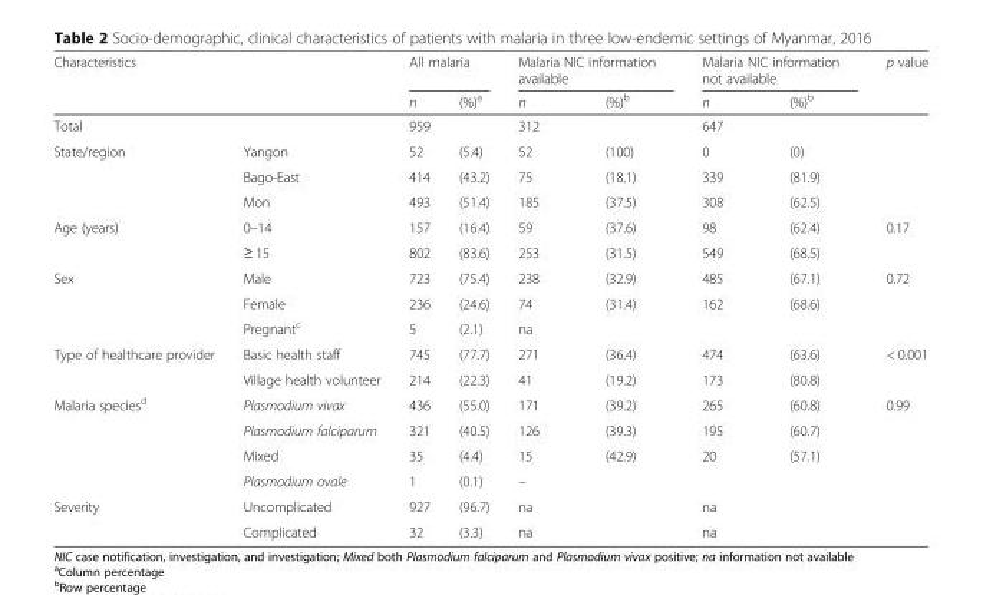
<table><thead><tr><td rowspan="2" colspan="2">Characteristics</td><td colspan="2">All malaria</td><td colspan="2">Malaria NIC information available</td><td colspan="2">Malaria NIC information not available</td><td rowspan="3">p value</td></tr><tr><td rowspan="2">n 959</td><td rowspan="2">(%)<sup>a</sup></td><td rowspan="2">n 312</td><td rowspan="2">(%)<sup>b</sup></td><td rowspan="2">n 647</td><td rowspan="2">(%)<sup>b</sup></td></tr><tr><td>Total</td><td></td></tr></thead><tbody><tr><td rowspan="3">State/region</td><td>Yangon</td><td>52</td><td>(5.4)</td><td>52</td><td>(100)</td><td>0</td><td>(0)</td><td></td></tr><tr><td>Bago-East</td><td>414</td><td>(43.2)</td><td>75</td><td>(18.1)</td><td>339</td><td>(81.9)</td><td></td></tr><tr><td>Mon</td><td>493</td><td>(51.4)</td><td>185</td><td>(37.5)</td><td>308</td><td>(62.5)</td><td></td></tr><tr><td rowspan="2">Age (years)</td><td>0–14</td><td>157</td><td>(16.4)</td><td>59</td><td>(37.6)</td><td>98</td><td>(62.4)</td><td>0.17</td></tr><tr><td>≥ 15</td><td>802</td><td>(83.6)</td><td>253</td><td>(31.5)</td><td>549</td><td>(68.5)</td><td></td></tr><tr><td rowspan="3">Sex</td><td>Male</td><td>723</td><td>(75.4)</td><td>238</td><td>(32.9)</td><td>485</td><td>(67.1)</td><td>0.72</td></tr><tr><td>Female</td><td>236</td><td>(24.6)</td><td>74</td><td>(31.4)</td><td>162</td><td>(68.6)</td><td></td></tr><tr><td>Pregnant<sup>c</sup></td><td>5</td><td>(2.1)</td><td>na</td><td></td><td></td><td></td><td></td></tr><tr><td rowspan="2">Type of healthcare provider</td><td>Basic health staff</td><td>745</td><td>(77.7)</td><td>271</td><td>(36.4)</td><td>474</td><td>(63.6)</td><td>&lt; 0.001</td></tr><tr><td>Village health volunteer</td><td>214</td><td>(22.3)</td><td>41</td><td>(19.2)</td><td>173</td><td>(80.8)</td><td></td></tr><tr><td rowspan="4">Malaria species<sup>d</sup></td><td>Plasmodium vivax</td><td>436</td><td>(55.0)</td><td>171</td><td>(39.2)</td><td>265</td><td>(60.8)</td><td>0.99</td></tr><tr><td>Plasmodium falciparum</td><td>321</td><td>(40.5)</td><td>126</td><td>(39.3)</td><td>195</td><td>(60.7)</td><td></td></tr><tr><td>Mixed</td><td>35</td><td>(4.4)</td><td>15</td><td>(42.9)</td><td>20</td><td>(57.1)</td><td></td></tr><tr><td>Plasmodium ovale</td><td>1</td><td>(0.1)</td><td>–</td><td></td><td></td><td></td><td></td></tr><tr><td rowspan="2">Severity</td><td>Uncomplicated</td><td>927</td><td>(96.7)</td><td>na</td><td></td><td>na</td><td></td><td></td></tr><tr><td>Complicated</td><td>32</td><td>(3.3)</td><td>na</td><td></td><td>na</td><td></td><td></td></tr></tbody></table>